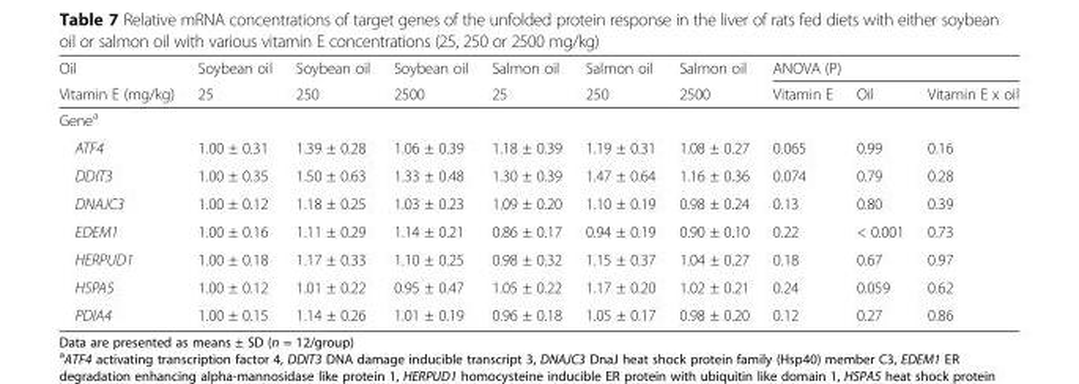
<table><thead><tr><td rowspan="2">Oil Vitamin E (mg/kg)</td><td rowspan="2">Soybean oil 25</td><td rowspan="2">Soybean oil 250</td><td rowspan="2">Soybean oil 2500</td><td rowspan="2">Salmon oil 25</td><td rowspan="2">Salmon oil 250</td><td rowspan="2">Salmon oil 2500</td><td colspan="3">ANOVA (P)</td></tr><tr><td>Vitamin E</td><td>Oil</td><td>Vitamin E x oil</td></tr></thead><tbody><tr><td colspan="10">Gene<sup>a</sup></td></tr><tr><td>ATF4</td><td>1.00 ± 0.31</td><td>1.39 ± 0.28</td><td>1.06 ± 0.39</td><td>1.18 ± 0.39</td><td>1.19 ± 0.31</td><td>1.08 ± 0.27</td><td>0.065</td><td>0.99</td><td>0.16</td></tr><tr><td>DDIT3</td><td>1.00 ± 0.35</td><td>1.50 ± 0.63</td><td>1.33 ± 0.48</td><td>1.30 ± 0.39</td><td>1.47 ± 0.64</td><td>1.16 ± 0.36</td><td>0.074</td><td>0.79</td><td>0.28</td></tr><tr><td>DNAJC3</td><td>1.00 ± 0.12</td><td>1.18 ± 0.25</td><td>1.03 ± 0.23</td><td>1.09 ± 0.20</td><td>1.10 ± 0.19</td><td>0.98 ± 0.24</td><td>0.13</td><td>0.80</td><td>0.39</td></tr><tr><td>EDEM1</td><td>1.00 ± 0.16</td><td>1.11 ± 0.29</td><td>1.14 ± 0.21</td><td>0.86 ± 0.17</td><td>0.94 ± 0.19</td><td>0.90 ± 0.10</td><td>0.22</td><td>&lt; 0.001</td><td>0.73</td></tr><tr><td>HERPUD1</td><td>1.00 ± 0.18</td><td>1.17 ± 0.33</td><td>1.10 ± 0.25</td><td>0.98 ± 0.32</td><td>1.15 ± 0.37</td><td>1.04 ± 0.27</td><td>0.18</td><td>0.67</td><td>0.97</td></tr><tr><td>HSPA5</td><td>1.00 ± 0.12</td><td>1.01 ± 0.22</td><td>0.95 ± 0.47</td><td>1.05 ± 0.22</td><td>1.17 ± 0.20</td><td>1.02 ± 0.21</td><td>0.24</td><td>0.059</td><td>0.62</td></tr><tr><td>PDIA4</td><td>1.00 ± 0.15</td><td>1.14 ± 0.26</td><td>1.01 ± 0.19</td><td>0.96 ± 0.18</td><td>1.05 ± 0.17</td><td>0.98 ± 0.20</td><td>0.12</td><td>0.27</td><td>0.86</td></tr></tbody></table>